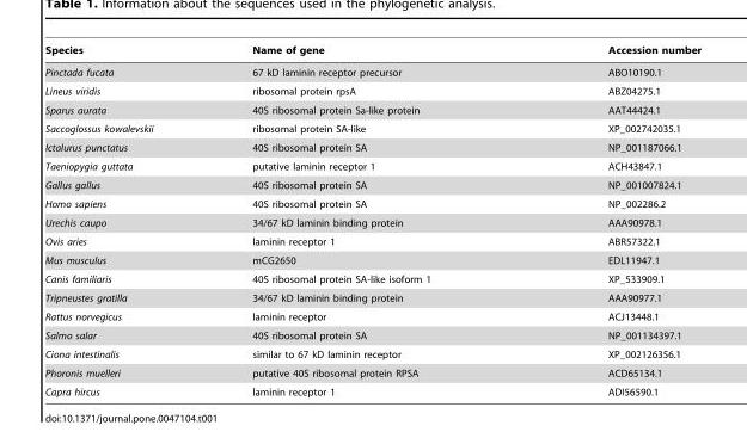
<table><thead><tr><td>Species</td><td>Name of gene</td><td>Accession number</td></tr></thead><tbody><tr><td>Pinctada fucata</td><td>67 kD laminin receptor precursor</td><td>ABO10190.1</td></tr><tr><td>Lineus viridis</td><td>ribosomal protein rpsA</td><td>ABZ04275.1</td></tr><tr><td>Sparus aurata</td><td>40S ribosomal protein Sa-like protein</td><td>AAT44424.1</td></tr><tr><td>Saccoglossus kowalevskii</td><td>ribosomal protein SA-like</td><td>XP_002742035.1</td></tr><tr><td>Ictalurus punctatus</td><td>40S ribosomal protein SA</td><td>NP_001187066.1</td></tr><tr><td>Taeniopygia guttata</td><td>putative laminin receptor 1</td><td>ACH43847.1</td></tr><tr><td>Gallus gallus</td><td>40S ribosomal protein SA</td><td>NP_001007824.1</td></tr><tr><td>Homo sapiens</td><td>40S ribosomal protein SA</td><td>NP_002286.2</td></tr><tr><td>Urechis caupo</td><td>34/67 kD laminin binding protein</td><td>AAA90978.1</td></tr><tr><td>Ovis aries</td><td>laminin receptor 1</td><td>ABR57322.1</td></tr><tr><td>Mus musculus</td><td>mCG2650</td><td>EDL11947.1</td></tr><tr><td>Canis familiaris</td><td>40S ribosomal protein SA-like isoform 1</td><td>XP_533909.1</td></tr><tr><td>Tripneustes gratilla</td><td>34/67 kD laminin binding protein</td><td>AAA90977.1</td></tr><tr><td>Rattus norvegicus</td><td>laminin receptor</td><td>ACJ13448.1</td></tr><tr><td>Salmo salar</td><td>40S ribosomal protein SA</td><td>NP_001134397.1</td></tr><tr><td>Ciona intestinalis</td><td>similar to 67 kD laminin receptor</td><td>XP_002126356.1</td></tr><tr><td>Phoronis muelleri</td><td>putative 40S ribosomal protein RPSA</td><td>ACD65134.1</td></tr><tr><td>Capra hircus</td><td>laminin receptor 1</td><td>ADI56590.1</td></tr></tbody></table>